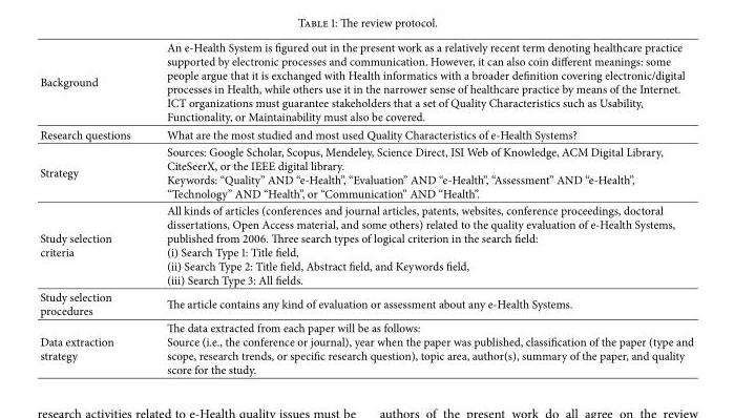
<table><tbody><tr><td>Background</td><td>An e-Health System is figured out in the present work as a relatively recent term denoting healthcare practice supported by electronic processes and communication. However, it can also coin different meanings: some people argue that it is exchanged with Health informatics with a broader definition covering electronic/digital processes in Health, while others use it in the narrower sense of healthcare practice by means of the Internet. ICT organizations must guarantee stakeholders that a set of Quality Characteristics such as Usability, Functionality, or Maintainability must also be covered.</td></tr><tr><td>Research questions</td><td>What are the most studied and most used Quality Characteristics of e-Health Systems?</td></tr><tr><td>Strategy</td><td>Sources: Google Scholar, Scopus, Mendeley, Science Direct, ISI Web of Knowledge, ACM Digital Library, CiteSeerX, or the IEEE digital library. Keywords: “Quality” AND “e-Health”, “Evaluation” AND “e-Health”, “Assessment” AND “e-Health”, “Technology” AND “Health”, or “Communication” AND “Health”.</td></tr><tr><td>Study selection criteria</td><td>All kinds of articles (conferences and journal articles, patents, websites, conference proceedings, doctoral dissertations, Open Access material, and some others) related to the quality evaluation of e-Health Systems, published from 2006. Three search types of logical criterion in the search field: (i) Search Type 1: Title field, (ii) Search Type 2: Title field, Abstract field, and Keywords field, (iii) Search Type 3: All fields.</td></tr><tr><td>Study selection procedures</td><td>The article contains any kind of evaluation or assessment about any e-Health Systems.</td></tr><tr><td>Data extraction strategy</td><td>The data extracted from each paper will be as follows: Source (i.e., the conference or journal), year when the paper was published, classification of the paper (type and scope, research trends, or specific research question), topic area, author(s), summary of the paper, and quality score for the study.</td></tr></tbody></table>